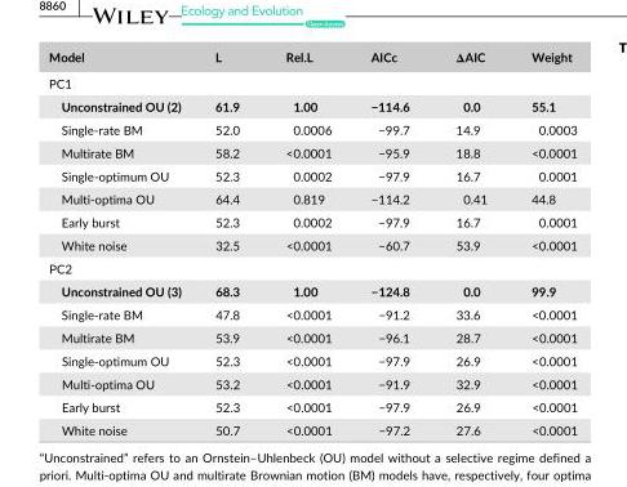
<table><thead><tr><td>Model</td><td>L</td><td>Rel.L</td><td>AICc</td><td>ΔAIC</td><td>Weight</td></tr></thead><tbody><tr><td colspan="6">PC1</td></tr><tr><td>Unconstrained OU (2)</td><td>61.9</td><td>1.00</td><td>−114.6</td><td>0.0</td><td>55.1</td></tr><tr><td>Single- rate BM</td><td>52.0</td><td>0.0006</td><td>−99.7</td><td>14.9</td><td>0.0003</td></tr><tr><td>Multirate BM</td><td>58.2</td><td>&lt;0.0001</td><td>−95.9</td><td>18.8</td><td>&lt;0.0001</td></tr><tr><td>Single- optimum OU</td><td>52.3</td><td>0.0002</td><td>−97.9</td><td>16.7</td><td>0.0001</td></tr><tr><td>Multi- optima OU</td><td>64.4</td><td>0.819</td><td>−114.2</td><td>0.41</td><td>44.8</td></tr><tr><td>Early burst</td><td>52.3</td><td>0.0002</td><td>−97.9</td><td>16.7</td><td>0.0001</td></tr><tr><td>White noise</td><td>32.5</td><td>&lt;0.0001</td><td>−60.7</td><td>53.9</td><td>&lt;0.0001</td></tr><tr><td colspan="6">PC2</td></tr><tr><td>Unconstrained OU (3)</td><td>68.3</td><td>1.00</td><td>−124.8</td><td>0.0</td><td>99.9</td></tr><tr><td>Single- rate BM</td><td>47.8</td><td>&lt;0.0001</td><td>−91.2</td><td>33.6</td><td>&lt;0.0001</td></tr><tr><td>Multirate BM</td><td>53.9</td><td>&lt;0.0001</td><td>−96.1</td><td>28.7</td><td>&lt;0.0001</td></tr><tr><td>Single- optimum OU</td><td>52.3</td><td>&lt;0.0001</td><td>−97.9</td><td>26.9</td><td>&lt;0.0001</td></tr><tr><td>Multi- optima OU</td><td>53.2</td><td>&lt;0.0001</td><td>−91.9</td><td>32.9</td><td>&lt;0.0001</td></tr><tr><td>Early burst</td><td>52.3</td><td>&lt;0.0001</td><td>−97.9</td><td>26.9</td><td>&lt;0.0001</td></tr><tr><td>White noise</td><td>50.7</td><td>&lt;0.0001</td><td>−97.2</td><td>27.6</td><td>&lt;0.0001</td></tr></tbody></table>